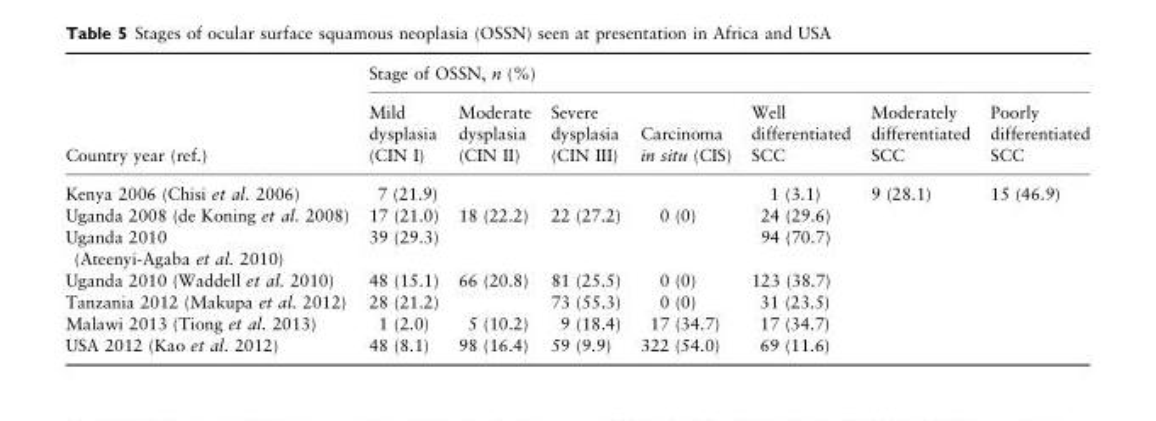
<table><thead><tr><td rowspan="2">Country year (ref.)</td><td colspan="7">Stage of OSSN, n (%)</td></tr><tr><td>Mild dysplasia (CIN I)</td><td>Moderate dysplasia (CIN II)</td><td>Severe dysplasia (CIN III)</td><td>Carcinoma in situ (CIS)</td><td>Well differentiated SCC</td><td>Moderately differentiated SCC</td><td>Poorly differentiated SCC</td></tr></thead><tbody><tr><td>Kenya 2006 (Chisi et al. 2006)</td><td>7 (21.9)</td><td></td><td></td><td></td><td>1 (3.1)</td><td>9 (28.1)</td><td>15 (46.9)</td></tr><tr><td>Uganda 2008 (de Koning et al. 2008)</td><td>17 (21.0)</td><td>18 (22.2)</td><td>22 (27.2)</td><td>0 (0)</td><td>24 (29.6)</td><td></td><td></td></tr><tr><td>Uganda 2010 (Ateenyi-Agaba et al. 2010)</td><td>39 (29.3)</td><td></td><td></td><td></td><td>94 (70.7)</td><td></td><td></td></tr><tr><td>Uganda 2010 (Waddell et al. 2010)</td><td>48 (15.1)</td><td>66 (20.8)</td><td>81 (25.5)</td><td>0 (0)</td><td>123 (38.7)</td><td></td><td></td></tr><tr><td>Tanzania 2012 (Makupa et al. 2012)</td><td>28 (21.2)</td><td></td><td>73 (55.3)</td><td>0 (0)</td><td>31 (23.5)</td><td></td><td></td></tr><tr><td>Malawi 2013 (Tiong et al. 2013)</td><td>1 (2.0)</td><td>5 (10.2)</td><td>9 (18.4)</td><td>17 (34.7)</td><td>17 (34.7)</td><td></td><td></td></tr><tr><td>USA 2012 (Kao et al. 2012)</td><td>48 (8.1)</td><td>98 (16.4)</td><td>59 (9.9)</td><td>322 (54.0)</td><td>69 (11.6)</td><td></td><td></td></tr></tbody></table>